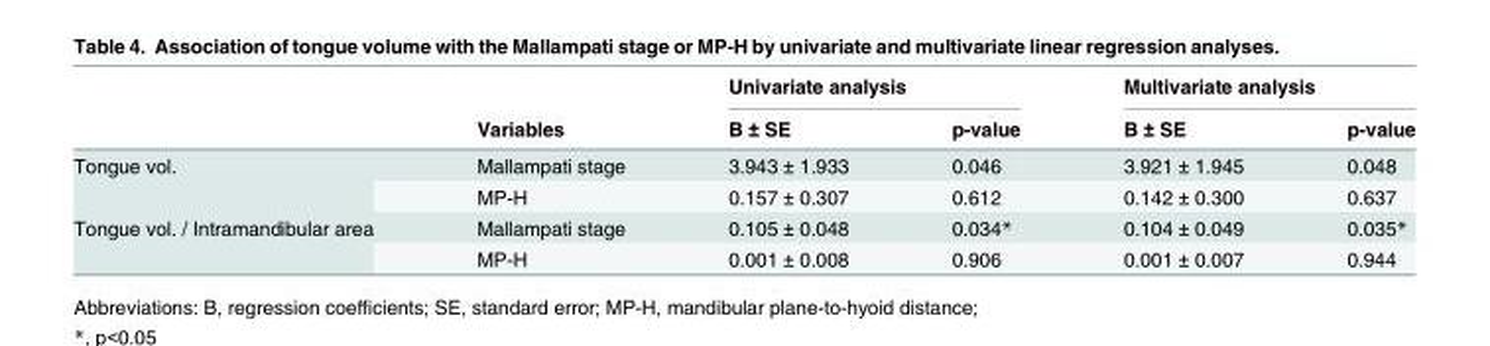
<table><thead><tr><td rowspan="2"></td><td rowspan="2">Variables</td><td colspan="2">Univariate analysis</td><td colspan="2">Multivariate analysis</td></tr><tr><td>B ± SE</td><td>p-value</td><td>B ± SE</td><td>p-value</td></tr></thead><tbody><tr><td rowspan="2">Tongue vol.</td><td>Mallampati stage</td><td>3.943 ± 1.933</td><td>0.046</td><td>3.921 ± 1.945</td><td>0.048</td></tr><tr><td>MP-H</td><td>0.157 ± 0.307</td><td>0.612</td><td>0.142 ± 0.300</td><td>0.637</td></tr><tr><td rowspan="2">Tongue vol. / Intramandibular area</td><td>Mallampati stage</td><td>0.105 ± 0.048</td><td>0.034*</td><td>0.104 ± 0.049</td><td>0.035*</td></tr><tr><td>MP-H</td><td>0.001 ± 0.008</td><td>0.906</td><td>0.001 ± 0.007</td><td>0.944</td></tr></tbody></table>